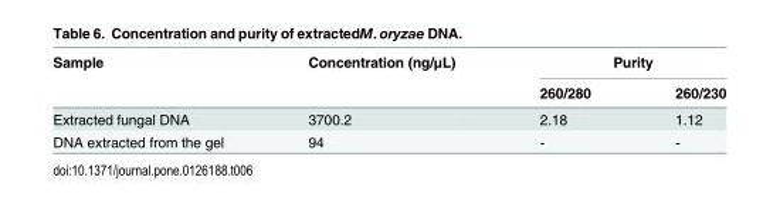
<table><thead><tr><td rowspan="2">Sample</td><td rowspan="2">Concentration (ng/μL)</td><td colspan="2">Purity</td></tr><tr><td>260/280</td><td>260/230</td></tr></thead><tbody><tr><td>Extracted fungal DNA</td><td>3700.2</td><td>2.18</td><td>1.12</td></tr><tr><td>DNA extracted from the gel</td><td>94</td><td>-</td><td>-</td></tr></tbody></table>